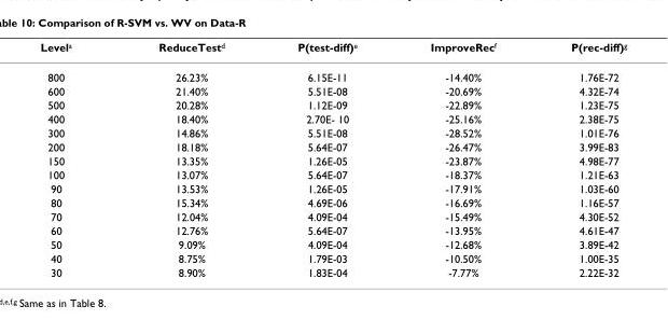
<table><thead><tr><td>Levela</td><td>ReduceTestd</td><td>P(test-diff)e</td><td>ImproveRecf</td><td>P(rec-diff)g</td></tr></thead><tbody><tr><td>800</td><td>26.23%</td><td>6.15E-11</td><td>-14.40%</td><td>1.76E-72</td></tr><tr><td>600</td><td>21.40%</td><td>5.51E-08</td><td>-20.69%</td><td>4.32E-74</td></tr><tr><td>500</td><td>20.28%</td><td>1.12E-09</td><td>-22.89%</td><td>1.23E-75</td></tr><tr><td>400</td><td>18.40%</td><td>2.70E- 10</td><td>-25.16%</td><td>2.38E-75</td></tr><tr><td>300</td><td>14.86%</td><td>5.51E-08</td><td>-28.52%</td><td>1.01E-76</td></tr><tr><td>200</td><td>18.18%</td><td>5.64E-07</td><td>-26.47%</td><td>3.99E-83</td></tr><tr><td>150</td><td>13.35%</td><td>1.26E-05</td><td>-23.87%</td><td>4.98E-77</td></tr><tr><td>100</td><td>13.07%</td><td>5.64E-07</td><td>-18.37%</td><td>1.21E-63</td></tr><tr><td>90</td><td>13.53%</td><td>1.26E-05</td><td>-17.91%</td><td>1.03E-60</td></tr><tr><td>80</td><td>15.34%</td><td>4.69E-06</td><td>-16.69%</td><td>1.16E-57</td></tr><tr><td>70</td><td>12.04%</td><td>4.09E-04</td><td>-15.49%</td><td>4.30E-52</td></tr><tr><td>60</td><td>12.76%</td><td>5.64E-07</td><td>-13.95%</td><td>4.61E-47</td></tr><tr><td>50</td><td>9.09%</td><td>4.09E-04</td><td>-12.68%</td><td>3.89E-42</td></tr><tr><td>40</td><td>8.75%</td><td>1.79E-03</td><td>-10.50%</td><td>1.00E-35</td></tr><tr><td>30</td><td>8.90%</td><td>1.83E-04</td><td>-7.77%</td><td>2.22E-32</td></tr></tbody></table>